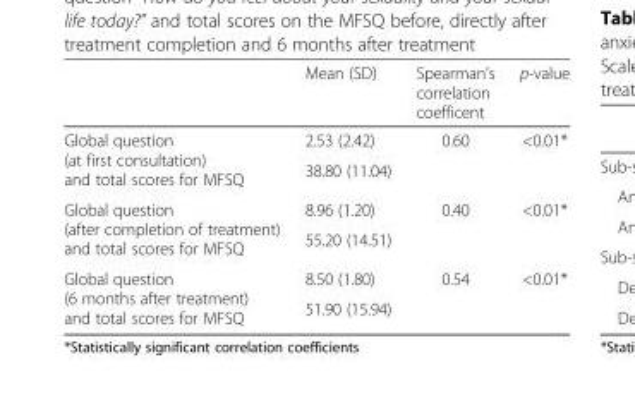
<table><thead><tr><td></td><td>Mean (SD)</td><td>Spearman’s correlation coefficent</td><td>p-value</td></tr></thead><tbody><tr><td rowspan="2">Global question (at first consultation) and total scores for MFSQ</td><td>2.53 (2.42)</td><td rowspan="2">0.60</td><td rowspan="2">&lt;0.01*</td></tr><tr><td>38.80 (11.04)</td></tr><tr><td rowspan="2">Global question (after completion of treatment) and total scores for MFSQ</td><td>8.96 (1.20)</td><td rowspan="2">0.40</td><td rowspan="2">&lt;0.01*</td></tr><tr><td>55.20 (14.51)</td></tr><tr><td rowspan="2">Global question (6 months after treatment) and total scores for MFSQ</td><td>8.50 (1.80)</td><td rowspan="2">0.54</td><td rowspan="2">&lt;0.01*</td></tr><tr><td>51.90 (15.94)</td></tr></tbody></table>